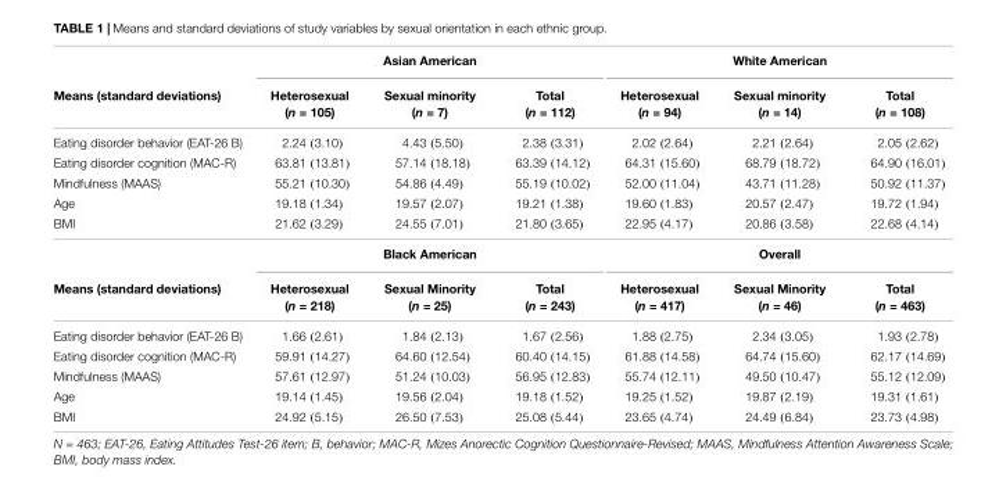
<table><thead><tr><td rowspan="2">Means (standard deviations)</td><td colspan="3">Asian American</td><td colspan="3">White American</td></tr><tr><td>Heterosexual (n = 105)</td><td>Sexual minority (n = 7)</td><td>Total (n = 112)</td><td>Heterosexual (n = 94)</td><td>Sexual minority (n = 14)</td><td>Total (n = 108)</td></tr></thead><tbody><tr><td>Eating disorder behavior (EAT-26 B)</td><td>2.24 (3.10)</td><td>4.43 (5.50)</td><td>2.38 (3.31)</td><td>2.02 (2.64)</td><td>2.21 (2.64)</td><td>2.05 (2.62)</td></tr><tr><td>Eating disorder cognition (MAC-R)</td><td>63.81 (13.81)</td><td>57.14 (18.18)</td><td>63.39 (14.12)</td><td>64.31 (15.60)</td><td>68.79 (18.72)</td><td>64.90 (16.01)</td></tr><tr><td>Mindfulness (MAAS)</td><td>55.21 (10.30)</td><td>54.86 (4.49)</td><td>55.19 (10.02)</td><td>52.00 (11.04)</td><td>43.71 (11.28)</td><td>50.92 (11.37)</td></tr><tr><td>Age</td><td>19.18 (1.34)</td><td>19.57 (2.07)</td><td>19.21 (1.38)</td><td>19.60 (1.83)</td><td>20.57 (2.47)</td><td>19.72 (1.94)</td></tr><tr><td rowspan="2">BMI</td><td>21.62 (3.29)</td><td>24.55 (7.01)</td><td>21.80 (3.65)</td><td>22.95 (4.17)</td><td>20.86 (3.58)</td><td>22.68 (4.14)</td></tr><tr><td colspan="3">Black American</td><td colspan="3">Overall</td></tr><tr><td>Means (standard deviations)</td><td>Heterosexual (n = 218)</td><td>Sexual Minority (n = 25)</td><td>Total (n = 243)</td><td>Heterosexual (n = 417)</td><td>Sexual Minority (n = 46)</td><td>Total (n = 463)</td></tr><tr><td>Eating disorder behavior (EAT-26 B)</td><td>1.66 (2.61)</td><td>1.84 (2.13)</td><td>1.67 (2.56)</td><td>1.88 (2.75)</td><td>2.34 (3.05)</td><td>1.93 (2.78)</td></tr><tr><td>Eating disorder cognition (MAC-R)</td><td>59.91 (14.27)</td><td>64.60 (12.54)</td><td>60.40 (14.15)</td><td>61.88 (14.58)</td><td>64.74 (15.60)</td><td>62.17 (14.69)</td></tr><tr><td>Mindfulness (MAAS)</td><td>57.61 (12.97)</td><td>51.24 (10.03)</td><td>56.95 (12.83)</td><td>55.74 (12.11)</td><td>49.50 (10.47)</td><td>55.12 (12.09)</td></tr><tr><td>Age</td><td>19.14 (1.45)</td><td>19.56 (2.04)</td><td>19.18 (1.52)</td><td>19.25 (1.52)</td><td>19.87 (2.19)</td><td>19.31 (1.61)</td></tr><tr><td>BMI</td><td>24.92 (5.15)</td><td>26.50 (7.53)</td><td>25.08 (5.44)</td><td>23.65 (4.74)</td><td>24.49 (6.84)</td><td>23.73 (4.98)</td></tr></tbody></table>